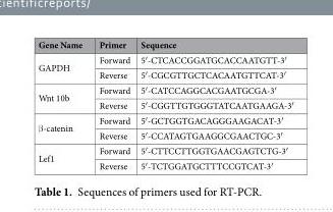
<table><thead><tr><td>Gene Name</td><td>Primer</td><td>Sequence</td></tr></thead><tbody><tr><td rowspan="2">GAPDH</td><td>Forward</td><td>5′-CTCACCGGATGCACCAATGTT-3′</td></tr><tr><td>Reverse</td><td>5′-CGCGTTGCTCACAATGTTCAT-3′</td></tr><tr><td rowspan="2">Wnt 10b</td><td>Forward</td><td>5′-CATCCAGGCACGAATGCGA-3′</td></tr><tr><td>Reverse</td><td>5′-CGGTTGTGGGTATCAATGAAGA-3′</td></tr><tr><td rowspan="2">β-catenin</td><td>Forward</td><td>5′-GCTGGTGACAGGGAAGACAT-3′</td></tr><tr><td>Reverse</td><td>5′-CCATAGTGAAGGCGAACTGC-3′</td></tr><tr><td rowspan="2">Lef1</td><td>Forward</td><td>5′-CTTCCTTGGTGAACGAGTCTG-3′</td></tr><tr><td>Reverse</td><td>5′-TCTGGATGCTTTCCGTCAT-3′</td></tr></tbody></table>